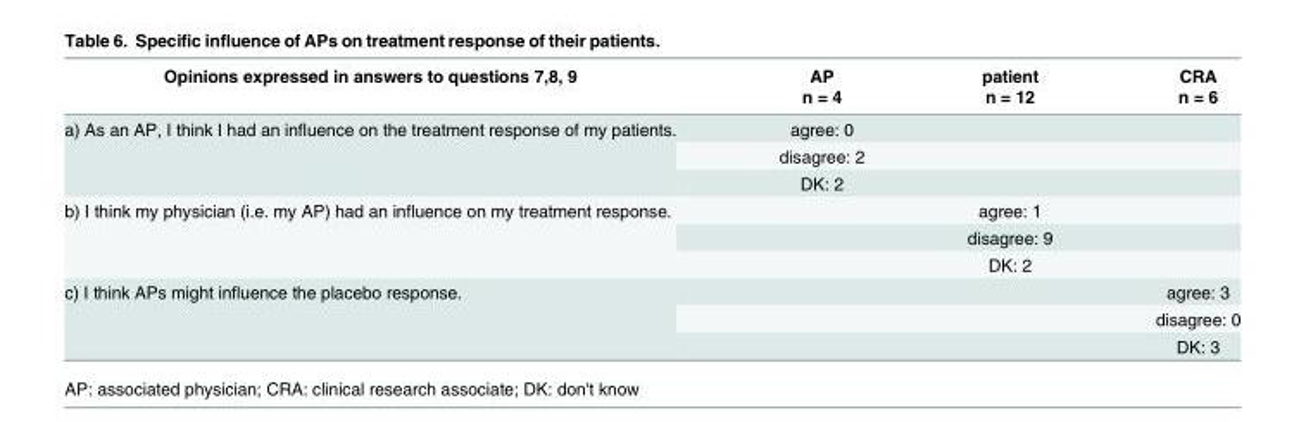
<table><thead><tr><td rowspan="2">Opinions expressed in answers to questions 7,8, 9</td><td rowspan="2">AP n = 4</td><td rowspan="2">patient n = 12</td><td rowspan="2">CRA n = 6</td></tr><tr></tr></thead><tbody><tr><td rowspan="3">a) As an AP, I think I had an influence on the treatment response of my patients.</td><td>agree: 0</td><td></td><td></td></tr><tr><td>disagree: 2</td><td></td><td></td></tr><tr><td>DK: 2</td><td></td><td></td></tr><tr><td rowspan="3">b) I think my physician (i.e. my AP) had an influence on my treatment response.</td><td></td><td>agree: 1</td><td></td></tr><tr><td></td><td>disagree: 9</td><td></td></tr><tr><td></td><td>DK: 2</td><td></td></tr><tr><td rowspan="3">c) I think APs might influence the placebo response.</td><td></td><td></td><td>agree: 3</td></tr><tr><td></td><td></td><td>disagree: 0</td></tr><tr><td></td><td></td><td>DK: 3</td></tr></tbody></table>